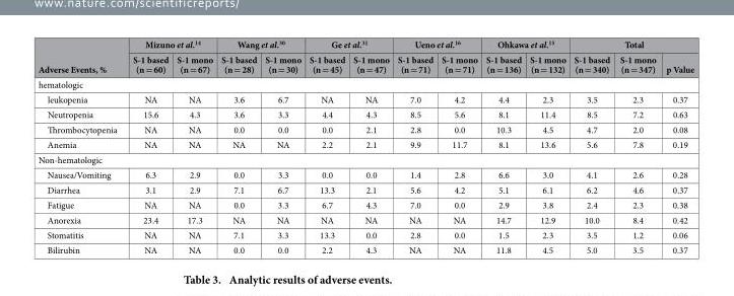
<table><thead><tr><td rowspan="2">Adverse Events, %</td><td colspan="2">Mizuno et al.<sup>14</sup></td><td colspan="2">Wang et al.<sup>30</sup></td><td colspan="2">Ge et al.<sup>31</sup></td><td colspan="2">Ueno et al.<sup>16</sup></td><td colspan="2">Ohkawa et al.<sup>15</sup></td><td colspan="3">Total</td></tr><tr><td>S-1 based (n = 60)</td><td>S-1 mono (n = 67)</td><td>S-1 based (n = 28)</td><td>S-1 mono (n = 30)</td><td>S-1 based (n = 45)</td><td>S-1 mono (n = 47)</td><td>S-1 based (n = 71)</td><td>S-1 mono (n = 71)</td><td>S-1 based (n = 136)</td><td>S-1 mono (n = 132)</td><td>S-1 based (n = 340)</td><td>S-1 mono (n = 347)</td><td>p Value</td></tr></thead><tbody><tr><td colspan="14">hematologic</td></tr><tr><td>leukopenia</td><td>NA</td><td>NA</td><td>3.6</td><td>6.7</td><td>NA</td><td>NA</td><td>7.0</td><td>4.2</td><td>4.4</td><td>2.3</td><td>3.5</td><td>2.3</td><td>0.37</td></tr><tr><td>Neutropenia</td><td>15.6</td><td>4.3</td><td>3.6</td><td>3.3</td><td>4.4</td><td>4.3</td><td>8.5</td><td>5.6</td><td>8.1</td><td>11.4</td><td>8.5</td><td>7.2</td><td>0.63</td></tr><tr><td>Thrombocytopenia</td><td>NA</td><td>NA</td><td>0.0</td><td>0.0</td><td>0.0</td><td>2.1</td><td>2.8</td><td>0.0</td><td>10.3</td><td>4.5</td><td>4.7</td><td>2.0</td><td>0.08</td></tr><tr><td>Anemia</td><td>NA</td><td>NA</td><td>NA</td><td>NA</td><td>2.2</td><td>2.1</td><td>9.9</td><td>11.7</td><td>8.1</td><td>13.6</td><td>5.6</td><td>7.8</td><td>0.19</td></tr><tr><td colspan="14">Non-hematologic</td></tr><tr><td>Nausea/Vomiting</td><td>6.3</td><td>2.9</td><td>0.0</td><td>3.3</td><td>0.0</td><td>0.0</td><td>1.4</td><td>2.8</td><td>6.6</td><td>3.0</td><td>4.1</td><td>2.6</td><td>0.28</td></tr><tr><td>Diarrhea</td><td>3.1</td><td>2.9</td><td>7.1</td><td>6.7</td><td>13.3</td><td>2.1</td><td>5.6</td><td>4.2</td><td>5.1</td><td>6.1</td><td>6.2</td><td>4.6</td><td>0.37</td></tr><tr><td>Fatigue</td><td>NA</td><td>NA</td><td>0.0</td><td>3.3</td><td>6.7</td><td>4.3</td><td>7.0</td><td>0.0</td><td>2.9</td><td>3.8</td><td>2.4</td><td>2.3</td><td>0.38</td></tr><tr><td>Anorexia</td><td>23.4</td><td>17.3</td><td>NA</td><td>NA</td><td>NA</td><td>NA</td><td>NA</td><td>NA</td><td>14.7</td><td>12.9</td><td>10.0</td><td>8.4</td><td>0.42</td></tr><tr><td>Stomatitis</td><td>NA</td><td>NA</td><td>7.1</td><td>3.3</td><td>13.3</td><td>0.0</td><td>2.8</td><td>0.0</td><td>1.5</td><td>2.3</td><td>3.5</td><td>1.2</td><td>0.06</td></tr><tr><td>Bilirubin</td><td>NA</td><td>NA</td><td>0.0</td><td>0.0</td><td>2.2</td><td>4.3</td><td>NA</td><td>NA</td><td>11.8</td><td>4.5</td><td>5.0</td><td>3.5</td><td>0.37</td></tr></tbody></table>